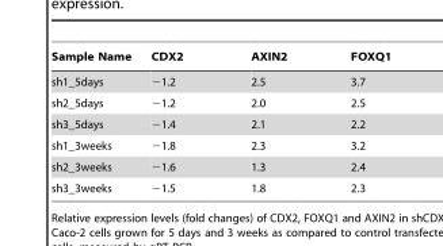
<table><thead><tr><td>Sample Name</td><td>CDX2</td><td>AXIN2</td><td>FOXQ1</td></tr></thead><tbody><tr><td>sh1_5days</td><td>−1.2</td><td>2.5</td><td>3.7</td></tr><tr><td>sh2_5days</td><td>−1.2</td><td>2.0</td><td>2.5</td></tr><tr><td>sh3_5days</td><td>−1.4</td><td>2.1</td><td>2.2</td></tr><tr><td>sh1_3weeks</td><td>−1.8</td><td>2.3</td><td>3.2</td></tr><tr><td>sh2_3weeks</td><td>−1.6</td><td>1.3</td><td>2.4</td></tr><tr><td>sh3_3weeks</td><td>−1.5</td><td>1.8</td><td>2.3</td></tr></tbody></table>